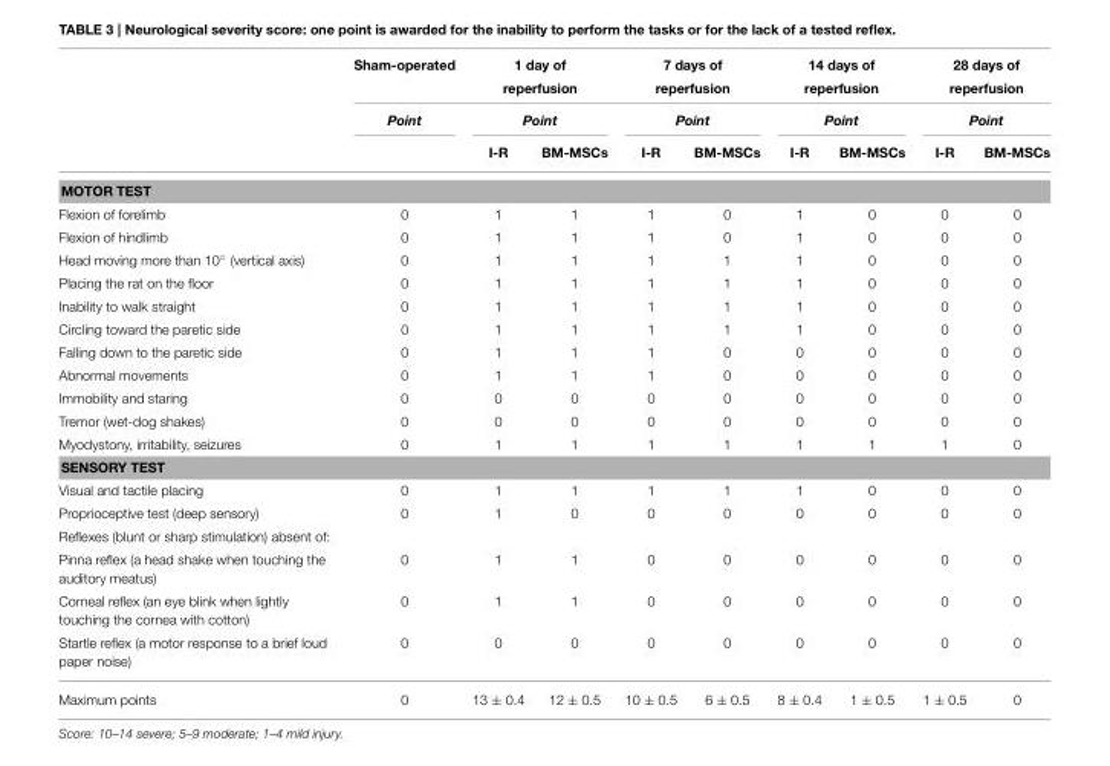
<table><thead><tr><td rowspan="3"></td><td rowspan="3">Sham-operated Point</td><td rowspan="2" colspan="2">1 day of reperfusion Point</td><td rowspan="2" colspan="2">7 days of reperfusion Point</td><td rowspan="2" colspan="2">14 days of reperfusion Point</td><td rowspan="2" colspan="2">28 days of reperfusion Point</td></tr><tr></tr><tr><td>I-R</td><td>BM-MSCs</td><td>I-R</td><td>BM-MSCs</td><td>I-R</td><td>BM-MSCs</td><td>I-R</td><td>BM-MSCs</td></tr></thead><tbody><tr><td colspan="10">MOTOR TEST</td></tr><tr><td>Flexion of forelimb</td><td>0</td><td>1</td><td>1</td><td>1</td><td>0</td><td>1</td><td>0</td><td>0</td><td>0</td></tr><tr><td>Flexion of hindlimb</td><td>0</td><td>1</td><td>1</td><td>1</td><td>0</td><td>1</td><td>0</td><td>0</td><td>0</td></tr><tr><td>Head moving more than 10◦ (vertical axis)</td><td>0</td><td>1</td><td>1</td><td>1</td><td>1</td><td>1</td><td>0</td><td>0</td><td>0</td></tr><tr><td>Placing the rat on the floor</td><td>0</td><td>1</td><td>1</td><td>1</td><td>1</td><td>1</td><td>0</td><td>0</td><td>0</td></tr><tr><td>Inability to walk straight</td><td>0</td><td>1</td><td>1</td><td>1</td><td>1</td><td>1</td><td>0</td><td>0</td><td>0</td></tr><tr><td>Circling toward the paretic side</td><td>0</td><td>1</td><td>1</td><td>1</td><td>1</td><td>1</td><td>0</td><td>0</td><td>0</td></tr><tr><td>Falling down to the paretic side</td><td>0</td><td>1</td><td>1</td><td>1</td><td>0</td><td>0</td><td>0</td><td>0</td><td>0</td></tr><tr><td>Abnormal movements</td><td>0</td><td>1</td><td>1</td><td>1</td><td>0</td><td>0</td><td>0</td><td>0</td><td>0</td></tr><tr><td>Immobility and staring</td><td>0</td><td>0</td><td>0</td><td>0</td><td>0</td><td>0</td><td>0</td><td>0</td><td>0</td></tr><tr><td>Tremor (wet-dog shakes)</td><td>0</td><td>0</td><td>0</td><td>0</td><td>0</td><td>0</td><td>0</td><td>0</td><td>0</td></tr><tr><td>Myodystony, irritability, seizures</td><td>0</td><td>1</td><td>1</td><td>1</td><td>1</td><td>1</td><td>1</td><td>1</td><td>0</td></tr><tr><td colspan="10">SENSORY TEST</td></tr><tr><td>Visual and tactile placing</td><td>0</td><td>1</td><td>1</td><td>1</td><td>1</td><td>1</td><td>0</td><td>0</td><td>0</td></tr><tr><td>Proprioceptive test (deep sensory)</td><td>0</td><td>1</td><td>0</td><td>0</td><td>0</td><td>0</td><td>0</td><td>0</td><td>0</td></tr><tr><td colspan="10">Reflexes (blunt or sharp stimulation) absent of:</td></tr><tr><td>Pinna reflex (a head shake when touching the auditory meatus)</td><td>0</td><td>1</td><td>1</td><td>0</td><td>0</td><td>0</td><td>0</td><td>0</td><td>0</td></tr><tr><td>Corneal reflex (an eye blink when lightly touching the cornea with cotton)</td><td>0</td><td>1</td><td>1</td><td>0</td><td>0</td><td>0</td><td>0</td><td>0</td><td>0</td></tr><tr><td>Startle reflex (a motor response to a brief loud paper noise)</td><td>0</td><td>0</td><td>0</td><td>0</td><td>0</td><td>0</td><td>0</td><td>0</td><td>0</td></tr><tr><td>Maximum points</td><td>0</td><td>13 ± 0.4</td><td>12 ± 0.5</td><td>10 ± 0.5</td><td>6 ± 0.5</td><td>8 ± 0.4</td><td>1 ± 0.5</td><td>1 ± 0.5</td><td>0</td></tr></tbody></table>